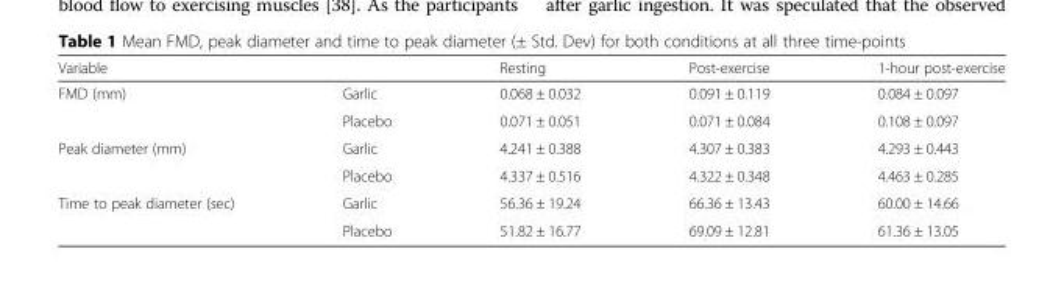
<table><thead><tr><td>Variable</td><td></td><td>Resting</td><td>Post-exercise</td><td>1-hour post-exercise</td></tr></thead><tbody><tr><td rowspan="2">FMD (mm)</td><td>Garlic</td><td>0.068 ± 0.032</td><td>0.091 ± 0.119</td><td>0.084 ± 0.097</td></tr><tr><td>Placebo</td><td>0.071 ± 0.051</td><td>0.071 ± 0.084</td><td>0.108 ± 0.097</td></tr><tr><td rowspan="2">Peak diameter (mm)</td><td>Garlic</td><td>4.241 ± 0.388</td><td>4.307 ± 0.383</td><td>4.293 ± 0.443</td></tr><tr><td>Placebo</td><td>4.337 ± 0.516</td><td>4.322 ± 0.348</td><td>4.463 ± 0.285</td></tr><tr><td rowspan="2">Time to peak diameter (sec)</td><td>Garlic</td><td>56.36 ± 19.24</td><td>66.36 ± 13.43</td><td>60.00 ± 14.66</td></tr><tr><td>Placebo</td><td>51.82 ± 16.77</td><td>69.09 ± 12.81</td><td>61.36 ± 13.05</td></tr></tbody></table>